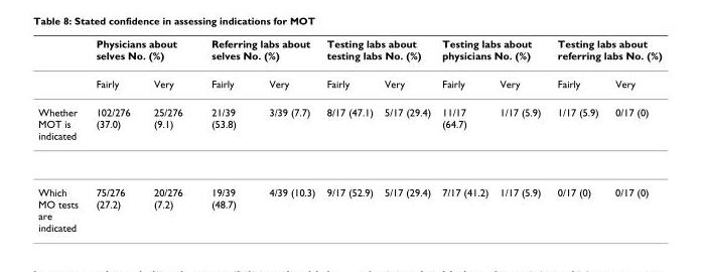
<table><thead><tr><td rowspan="2"></td><td colspan="2">Physicians about selves No. (%)</td><td colspan="2">Referring labs about selves No. (%)</td><td colspan="2">Testing labs about testing labs No. (%)</td><td colspan="2">Testing labs about physicians No. (%)</td><td colspan="2">Testing labs about referring labs No. (%)</td></tr><tr><td>Fairly</td><td>Very</td><td>Fairly</td><td>Very</td><td>Fairly</td><td>Very</td><td>Fairly</td><td>Very</td><td>Fairly</td><td>Very</td></tr></thead><tbody><tr><td>Whether MOT is indicated</td><td>102/276 (37.0)</td><td>25/276 (9.1)</td><td>21/39 (53.8)</td><td>3/39 (7.7)</td><td>8/17 (47.1)</td><td>5/17 (29.4)</td><td>11/17 (64.7)</td><td>1/17 (5.9)</td><td>1/17 (5.9)</td><td>0/17 (0)</td></tr><tr><td>Which MO tests are indicated</td><td>75/276 (27.2)</td><td>20/276 (7.2)</td><td>19/39 (48.7)</td><td>4/39 (10.3)</td><td>9/17 (52.9)</td><td>5/17 (29.4)</td><td>7/17 (41.2)</td><td>1/17 (5.9)</td><td>0/17 (0)</td><td>0/17 (0)</td></tr></tbody></table>